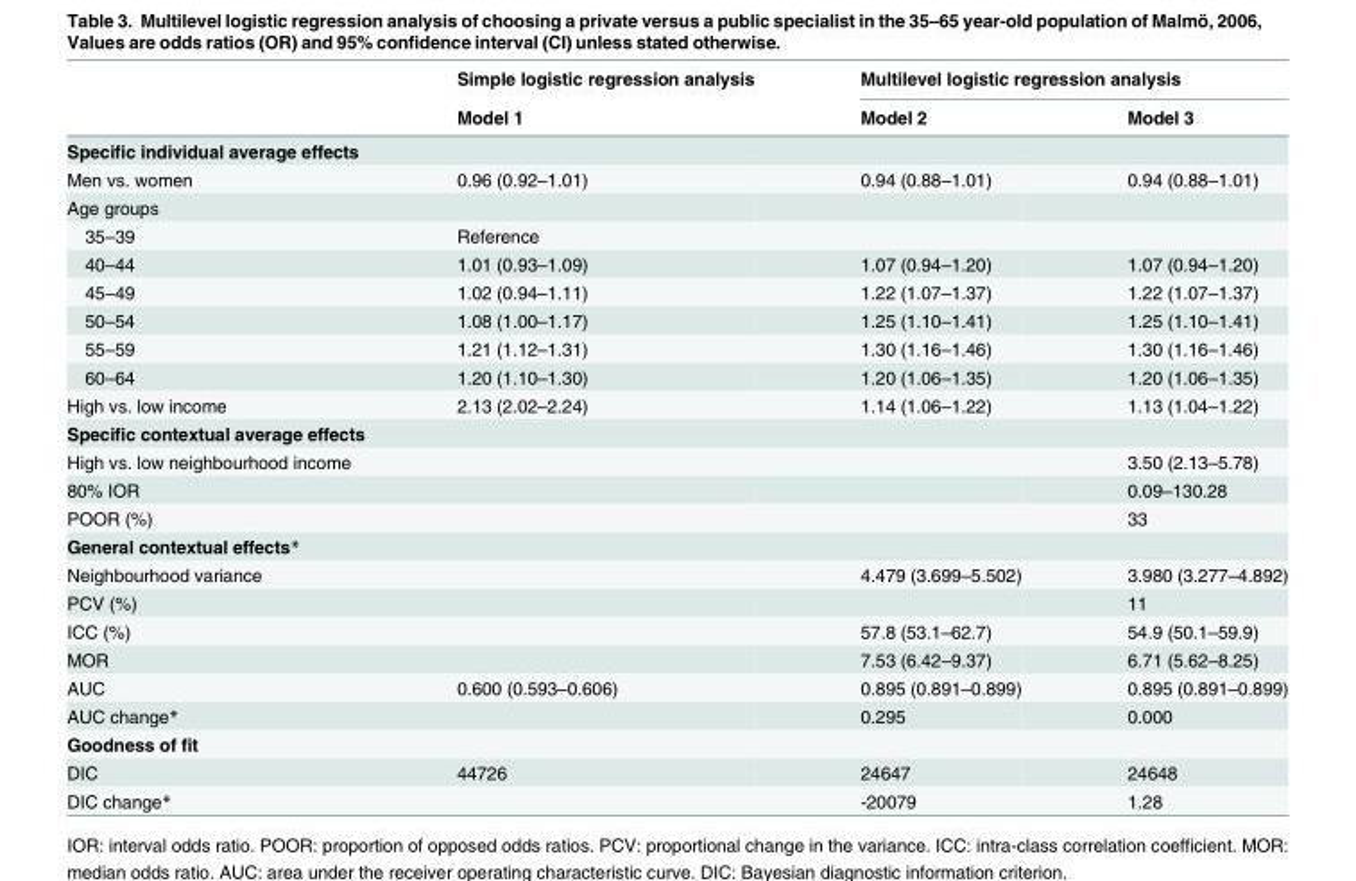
<table><thead><tr><td rowspan="2"></td><td rowspan="2">Simple logistic regression analysis Model 1</td><td colspan="2">Multilevel logistic regression analysis</td></tr><tr><td>Model 2</td><td>Model 3</td></tr></thead><tbody><tr><td colspan="4">Specific individual average effects</td></tr><tr><td>Men vs. women</td><td>0.96 (0.92–1.01)</td><td>0.94 (0.88–1.01)</td><td>0.94 (0.88–1.01)</td></tr><tr><td colspan="4">Age groups</td></tr><tr><td>35–39</td><td>Reference</td><td></td><td></td></tr><tr><td>40–44</td><td>1.01 (0.93–1.09)</td><td>1.07 (0.94–1.20)</td><td>1.07 (0.94–1.20)</td></tr><tr><td>45–49</td><td>1.02 (0.94–1.11)</td><td>1.22 (1.07–1.37)</td><td>1.22 (1.07–1.37)</td></tr><tr><td>50–54</td><td>1.08 (1.00–1.17)</td><td>1.25 (1.10–1.41)</td><td>1.25 (1.10–1.41)</td></tr><tr><td>55–59</td><td>1.21 (1.12–1.31)</td><td>1.30 (1.16–1.46)</td><td>1.30 (1.16–1.46)</td></tr><tr><td>60–64</td><td>1.20 (1.10–1.30)</td><td>1.20 (1.06–1.35)</td><td>1.20 (1.06–1.35)</td></tr><tr><td>High vs. low income</td><td>2.13 (2.02–2.24)</td><td>1.14 (1.06–1.22)</td><td>1.13 (1.04–1.22)</td></tr><tr><td colspan="4">Specific contextual average effects</td></tr><tr><td>High vs. low neighbourhood income</td><td></td><td></td><td>3.50 (2.13–5.78)</td></tr><tr><td>80% IOR</td><td></td><td></td><td>0.09–130.28</td></tr><tr><td>POOR (%)</td><td></td><td></td><td>33</td></tr><tr><td colspan="4">General contextual effects*</td></tr><tr><td>Neighbourhood variance</td><td></td><td>4.479 (3.699–5.502)</td><td>3.980 (3.277–4.892)</td></tr><tr><td>PCV (%)</td><td></td><td></td><td>11</td></tr><tr><td>ICC (%)</td><td></td><td>57.8 (53.1–62.7)</td><td>54.9 (50.1–59.9)</td></tr><tr><td>MOR</td><td></td><td>7.53 (6.42–9.37)</td><td>6.71 (5.62–8.25)</td></tr><tr><td>AUC</td><td>0.600 (0.593–0.606)</td><td>0.895 (0.891–0.899)</td><td>0.895 (0.891–0.899)</td></tr><tr><td>AUC change*</td><td></td><td>0.295</td><td>0.000</td></tr><tr><td colspan="4">Goodness of fit</td></tr><tr><td>DIC</td><td>44726</td><td>24647</td><td>24648</td></tr><tr><td colspan="2">DIC change*</td><td>-20079</td><td>1.28</td></tr></tbody></table>